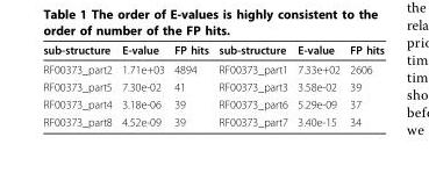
<table><thead><tr><td>sub-structure</td><td>E-value</td><td>FP hits</td><td>sub-structure</td><td>E-value</td><td>FP hits</td></tr></thead><tbody><tr><td>RF00373_part2</td><td>1.71e+03</td><td>4894</td><td>RF00373_part1</td><td>7.33e+02</td><td>2606</td></tr><tr><td>RF00373_part5</td><td>7.30e-02</td><td>41</td><td>RF00373_part3</td><td>3.58e-02</td><td>39</td></tr><tr><td>RF00373_part4</td><td>3.18e-06</td><td>39</td><td>RF00373_part6</td><td>5.29e-09</td><td>37</td></tr><tr><td>RF00373_part8</td><td>4.52e-09</td><td>39</td><td>RF00373_part7</td><td>3.40e-15</td><td>34</td></tr></tbody></table>